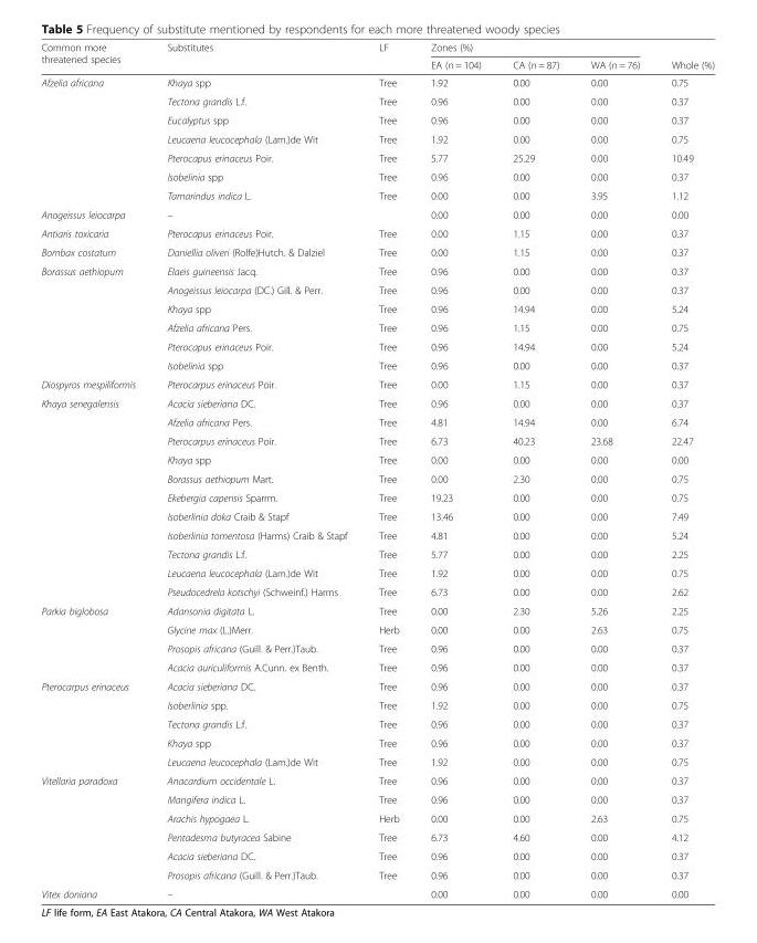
<table><thead><tr><td rowspan="2">Common more threatened species</td><td rowspan="2">Substitutes</td><td rowspan="2">LF</td><td colspan="3">Zones (%)</td><td rowspan="2">Whole (%)</td></tr><tr><td>EA (n = 104)</td><td>CA (n = 87)</td><td>WA (n = 76)</td></tr></thead><tbody><tr><td rowspan="7">Afzelia africana</td><td>Khaya spp</td><td>Tree</td><td>1.92</td><td>0.00</td><td>0.00</td><td>0.75</td></tr><tr><td>Tectona grandis L.f.</td><td>Tree</td><td>0.96</td><td>0.00</td><td>0.00</td><td>0.37</td></tr><tr><td>Eucalyptus spp</td><td>Tree</td><td>0.96</td><td>0.00</td><td>0.00</td><td>0.37</td></tr><tr><td>Leucaena leucocephala (Lam.)de Wit</td><td>Tree</td><td>1.92</td><td>0.00</td><td>0.00</td><td>0.75</td></tr><tr><td>Pterocapus erinaceus Poir.</td><td>Tree</td><td>5.77</td><td>25.29</td><td>0.00</td><td>10.49</td></tr><tr><td>Isobelinia spp</td><td>Tree</td><td>0.96</td><td>0.00</td><td>0.00</td><td>0.37</td></tr><tr><td>Tamarindus indica L.</td><td>Tree</td><td>0.00</td><td>0.00</td><td>3.95</td><td>1.12</td></tr><tr><td>Anogeissus leiocarpa</td><td>–</td><td></td><td>0.00</td><td>0.00</td><td>0.00</td><td>0.00</td></tr><tr><td>Antiaris toxicaria</td><td>Pterocapus erinaceus Poir.</td><td>Tree</td><td>0.00</td><td>1.15</td><td>0.00</td><td>0.37</td></tr><tr><td>Bombax costatum</td><td>Daniellia oliveri (Rolfe)Hutch. &amp; Dalziel</td><td>Tree</td><td>0.00</td><td>1.15</td><td>0.00</td><td>0.37</td></tr><tr><td rowspan="6">Borassus aethiopum</td><td>Elaeis guineensis Jacq.</td><td>Tree</td><td>0.96</td><td>0.00</td><td>0.00</td><td>0.37</td></tr><tr><td>Anogeissus leiocarpa (DC.) Gill. &amp; Perr.</td><td>Tree</td><td>0.96</td><td>0.00</td><td>0.00</td><td>0.37</td></tr><tr><td>Khaya spp</td><td>Tree</td><td>0.96</td><td>14.94</td><td>0.00</td><td>5.24</td></tr><tr><td>Afzelia africana Pers.</td><td>Tree</td><td>0.96</td><td>1.15</td><td>0.00</td><td>0.75</td></tr><tr><td>Pterocapus erinaceus Poir.</td><td>Tree</td><td>0.96</td><td>14.94</td><td>0.00</td><td>5.24</td></tr><tr><td>Isobelinia spp</td><td>Tree</td><td>0.96</td><td>0.00</td><td>0.00</td><td>0.37</td></tr><tr><td>Diospyros mespiliformis</td><td>Pterocarpus erinaceus Poir.</td><td>Tree</td><td>0.00</td><td>1.15</td><td>0.00</td><td>0.37</td></tr><tr><td rowspan="11">Khaya senegalensis</td><td>Acacia sieberiana DC.</td><td>Tree</td><td>0.96</td><td>0.00</td><td>0.00</td><td>0.37</td></tr><tr><td>Afzelia africana Pers.</td><td>Tree</td><td>4.81</td><td>14.94</td><td>0.00</td><td>6.74</td></tr><tr><td>Pterocarpus erinaceus Poir.</td><td>Tree</td><td>6.73</td><td>40.23</td><td>23.68</td><td>22.47</td></tr><tr><td>Khaya spp</td><td>Tree</td><td>0.00</td><td>0.00</td><td>0.00</td><td>0.00</td></tr><tr><td>Borassus aethiopum Mart.</td><td>Tree</td><td>0.00</td><td>2.30</td><td>0.00</td><td>0.75</td></tr><tr><td>Ekebergia capensis Sparrm.</td><td>Tree</td><td>19.23</td><td>0.00</td><td>0.00</td><td>0.75</td></tr><tr><td>Isoberlinia doka Craib &amp; Stapf</td><td>Tree</td><td>13.46</td><td>0.00</td><td>0.00</td><td>7.49</td></tr><tr><td>Isoberlinia tomentosa (Harms) Craib &amp; Stapf</td><td>Tree</td><td>4.81</td><td>0.00</td><td>0.00</td><td>5.24</td></tr><tr><td>Tectona grandis L.f.</td><td>Tree</td><td>5.77</td><td>0.00</td><td>0.00</td><td>2.25</td></tr><tr><td>Leucaena leucocephala (Lam.)de Wit</td><td>Tree</td><td>1.92</td><td>0.00</td><td>0.00</td><td>0.75</td></tr><tr><td>Pseudocedrela kotschyi (Schweinf.) Harms</td><td>Tree</td><td>6.73</td><td>0.00</td><td>0.00</td><td>2.62</td></tr><tr><td rowspan="4">Parkia biglobosa</td><td>Adansonia digitata L.</td><td>Tree</td><td>0.00</td><td>2.30</td><td>5.26</td><td>2.25</td></tr><tr><td>Glycine max (L.)Merr.</td><td>Herb</td><td>0.00</td><td>0.00</td><td>2.63</td><td>0.75</td></tr><tr><td>Prosopis africana (Guill. &amp; Perr.)Taub.</td><td>Tree</td><td>0.96</td><td>0.00</td><td>0.00</td><td>0.37</td></tr><tr><td>Acacia auriculiformis A.Cunn. ex Benth.</td><td>Tree</td><td>0.96</td><td>0.00</td><td>0.00</td><td>0.37</td></tr><tr><td rowspan="5">Pterocarpus erinaceus</td><td>Acacia sieberiana DC.</td><td>Tree</td><td>0.96</td><td>0.00</td><td>0.00</td><td>0.37</td></tr><tr><td>Isoberlinia spp.</td><td>Tree</td><td>1.92</td><td>0.00</td><td>0.00</td><td>0.75</td></tr><tr><td>Tectona grandis L.f.</td><td>Tree</td><td>0.96</td><td>0.00</td><td>0.00</td><td>0.37</td></tr><tr><td>Khaya spp</td><td>Tree</td><td>0.96</td><td>0.00</td><td>0.00</td><td>0.37</td></tr><tr><td>Leucaena leucocephala (Lam.)de Wit</td><td>Tree</td><td>1.92</td><td>0.00</td><td>0.00</td><td>0.75</td></tr><tr><td rowspan="6">Vitellaria paradoxa</td><td>Anacardium occidentale L.</td><td>Tree</td><td>0.96</td><td>0.00</td><td>0.00</td><td>0.37</td></tr><tr><td>Mangifera indica L.</td><td>Tree</td><td>0.96</td><td>0.00</td><td>0.00</td><td>0.37</td></tr><tr><td>Arachis hypogaea L.</td><td>Herb</td><td>0.00</td><td>0.00</td><td>2.63</td><td>0.75</td></tr><tr><td>Pentadesma butyracea Sabine</td><td>Tree</td><td>6.73</td><td>4.60</td><td>0.00</td><td>4.12</td></tr><tr><td>Acacia sieberiana DC.</td><td>Tree</td><td>0.96</td><td>0.00</td><td>0.00</td><td>0.37</td></tr><tr><td>Prosopis africana (Guill. &amp; Perr.)Taub.</td><td>Tree</td><td>0.96</td><td>0.00</td><td>0.00</td><td>0.37</td></tr><tr><td>Vitex doniana</td><td>–</td><td></td><td>0.00</td><td>0.00</td><td>0.00</td><td>0.00</td></tr></tbody></table>